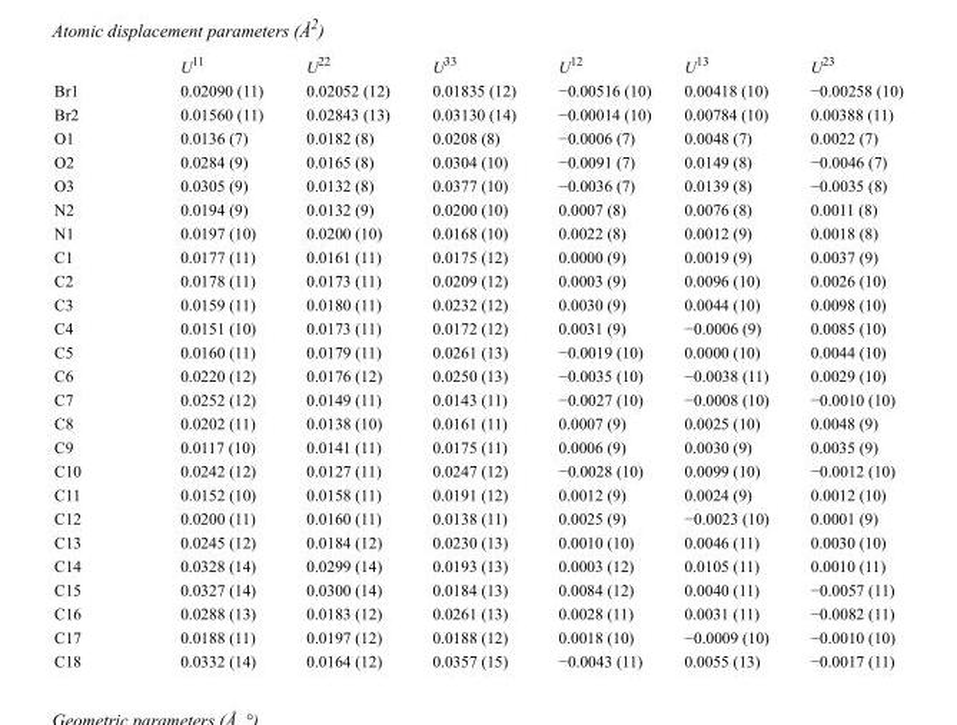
<table><thead><tr><td></td><td>U<sup>11</sup></td><td>U<sup>22</sup></td><td>U<sup>33</sup></td><td>U<sup>12</sup></td><td>U<sup>13</sup></td><td>U<sup>23</sup></td></tr></thead><tbody><tr><td>Br1</td><td>0.02090 (11)</td><td>0.02052 (12)</td><td>0.01835 (12)</td><td>−0.00516 (10)</td><td>0.00418 (10)</td><td>−0.00258 (10)</td></tr><tr><td>Br2</td><td>0.01560 (11)</td><td>0.02843 (13)</td><td>0.03130 (14)</td><td>−0.00014 (10)</td><td>0.00784 (10)</td><td>0.00388 (11)</td></tr><tr><td>O1</td><td>0.0136 (7)</td><td>0.0182 (8)</td><td>0.0208 (8)</td><td>−0.0006 (7)</td><td>0.0048 (7)</td><td>0.0022 (7)</td></tr><tr><td>O2</td><td>0.0284 (9)</td><td>0.0165 (8)</td><td>0.0304 (10)</td><td>−0.0091 (7)</td><td>0.0149 (8)</td><td>−0.0046 (7)</td></tr><tr><td>O3</td><td>0.0305 (9)</td><td>0.0132 (8)</td><td>0.0377 (10)</td><td>−0.0036 (7)</td><td>0.0139 (8)</td><td>−0.0035 (8)</td></tr><tr><td>N2</td><td>0.0194 (9)</td><td>0.0132 (9)</td><td>0.0200 (10)</td><td>0.0007 (8)</td><td>0.0076 (8)</td><td>0.0011 (8)</td></tr><tr><td>N1</td><td>0.0197 (10)</td><td>0.0200 (10)</td><td>0.0168 (10)</td><td>0.0022 (8)</td><td>0.0012 (9)</td><td>0.0018 (8)</td></tr><tr><td>C1</td><td>0.0177 (11)</td><td>0.0161 (11)</td><td>0.0175 (12)</td><td>0.0000 (9)</td><td>0.0019 (9)</td><td>0.0037 (9)</td></tr><tr><td>C2</td><td>0.0178 (11)</td><td>0.0173 (11)</td><td>0.0209 (12)</td><td>0.0003 (9)</td><td>0.0096 (10)</td><td>0.0026 (10)</td></tr><tr><td>C3</td><td>0.0159 (11)</td><td>0.0180 (11)</td><td>0.0232 (12)</td><td>0.0030 (9)</td><td>0.0044 (10)</td><td>0.0098 (10)</td></tr><tr><td>C4</td><td>0.0151 (10)</td><td>0.0173 (11)</td><td>0.0172 (12)</td><td>0.0031 (9)</td><td>−0.0006 (9)</td><td>0.0085 (10)</td></tr><tr><td>C5</td><td>0.0160 (11)</td><td>0.0179 (11)</td><td>0.0261 (13)</td><td>−0.0019 (10)</td><td>0.0000 (10)</td><td>0.0044 (10)</td></tr><tr><td>C6</td><td>0.0220 (12)</td><td>0.0176 (12)</td><td>0.0250 (13)</td><td>−0.0035 (10)</td><td>−0.0038 (11)</td><td>0.0029 (10)</td></tr><tr><td>C7</td><td>0.0252 (12)</td><td>0.0149 (11)</td><td>0.0143 (11)</td><td>−0.0027 (10)</td><td>−0.0008 (10)</td><td>−0.0010 (10)</td></tr><tr><td>C8</td><td>0.0202 (11)</td><td>0.0138 (10)</td><td>0.0161 (11)</td><td>0.0007 (9)</td><td>0.0025 (10)</td><td>0.0048 (9)</td></tr><tr><td>C9</td><td>0.0117 (10)</td><td>0.0141 (11)</td><td>0.0175 (11)</td><td>0.0006 (9)</td><td>0.0030 (9)</td><td>0.0035 (9)</td></tr><tr><td>C10</td><td>0.0242 (12)</td><td>0.0127 (11)</td><td>0.0247 (12)</td><td>−0.0028 (10)</td><td>0.0099 (10)</td><td>−0.0012 (10)</td></tr><tr><td>C11</td><td>0.0152 (10)</td><td>0.0158 (11)</td><td>0.0191 (12)</td><td>0.0012 (9)</td><td>0.0024 (9)</td><td>0.0012 (10)</td></tr><tr><td>C12</td><td>0.0200 (11)</td><td>0.0160 (11)</td><td>0.0138 (11)</td><td>0.0025 (9)</td><td>−0.0023 (10)</td><td>0.0001 (9)</td></tr><tr><td>C13</td><td>0.0245 (12)</td><td>0.0184 (12)</td><td>0.0230 (13)</td><td>0.0010 (10)</td><td>0.0046 (11)</td><td>0.0030 (10)</td></tr><tr><td>C14</td><td>0.0328 (14)</td><td>0.0299 (14)</td><td>0.0193 (13)</td><td>0.0003 (12)</td><td>0.0105 (11)</td><td>0.0010 (11)</td></tr><tr><td>C15</td><td>0.0327 (14)</td><td>0.0300 (14)</td><td>0.0184 (13)</td><td>0.0084 (12)</td><td>0.0040 (11)</td><td>−0.0057 (11)</td></tr><tr><td>C16</td><td>0.0288 (13)</td><td>0.0183 (12)</td><td>0.0261 (13)</td><td>0.0028 (11)</td><td>0.0031 (11)</td><td>−0.0082 (11)</td></tr><tr><td>C17</td><td>0.0188 (11)</td><td>0.0197 (12)</td><td>0.0188 (12)</td><td>0.0018 (10)</td><td>−0.0009 (10)</td><td>−0.0010 (10)</td></tr><tr><td>C18</td><td>0.0332 (14)</td><td>0.0164 (12)</td><td>0.0357 (15)</td><td>−0.0043 (11)</td><td>0.0055 (13)</td><td>−0.0017 (11)</td></tr></tbody></table>